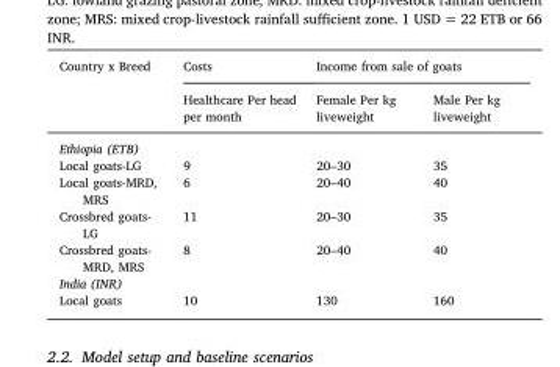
<table><thead><tr><td rowspan="2">Country x Breed</td><td rowspan="2">Costs Healthcare Per head per month</td><td colspan="2">Income from sale of goats</td></tr><tr><td>Female Per kg liveweight</td><td>Male Per kg liveweight</td></tr></thead><tbody><tr><td colspan="4">Ethiopia (ETB)</td></tr><tr><td>Local goats-LG</td><td>9</td><td>20–30</td><td>35</td></tr><tr><td>Local goats-MRD, MRS</td><td>6</td><td>20–40</td><td>40</td></tr><tr><td>Crossbred goats- LG</td><td>11</td><td>20–30</td><td>35</td></tr><tr><td>Crossbred goats- MRD, MRS</td><td>8</td><td>20–40</td><td>40</td></tr><tr><td colspan="4">India (INR)</td></tr><tr><td>Local goats</td><td>10</td><td>130</td><td>160</td></tr></tbody></table>